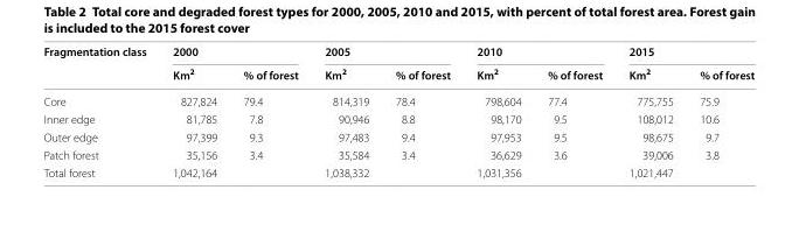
<table><thead><tr><td rowspan="2">Fragmentation class</td><td colspan="2">2000</td><td colspan="2">2005</td><td colspan="2">2010</td><td colspan="2">2015</td></tr><tr><td>Km<sup>2</sup></td><td>% of forest</td><td>Km<sup>2</sup></td><td>% of forest</td><td>Km<sup>2</sup></td><td>% of forest</td><td>Km<sup>2</sup></td><td>% of forest</td></tr></thead><tbody><tr><td>Core</td><td>827,824</td><td>79.4</td><td>814,319</td><td>78.4</td><td>798,604</td><td>77.4</td><td>775,755</td><td>75.9</td></tr><tr><td>Inner edge</td><td>81,785</td><td>7.8</td><td>90,946</td><td>8.8</td><td>98,170</td><td>9.5</td><td>108,012</td><td>10.6</td></tr><tr><td>Outer edge</td><td>97,399</td><td>9.3</td><td>97,483</td><td>9.4</td><td>97,953</td><td>9.5</td><td>98,675</td><td>9.7</td></tr><tr><td>Patch forest</td><td>35,156</td><td>3.4</td><td>35,584</td><td>3.4</td><td>36,629</td><td>3.6</td><td>39,006</td><td>3.8</td></tr><tr><td>Total forest</td><td>1,042,164</td><td></td><td>1,038,332</td><td></td><td>1,031,356</td><td></td><td>1,021,447</td><td></td></tr></tbody></table>